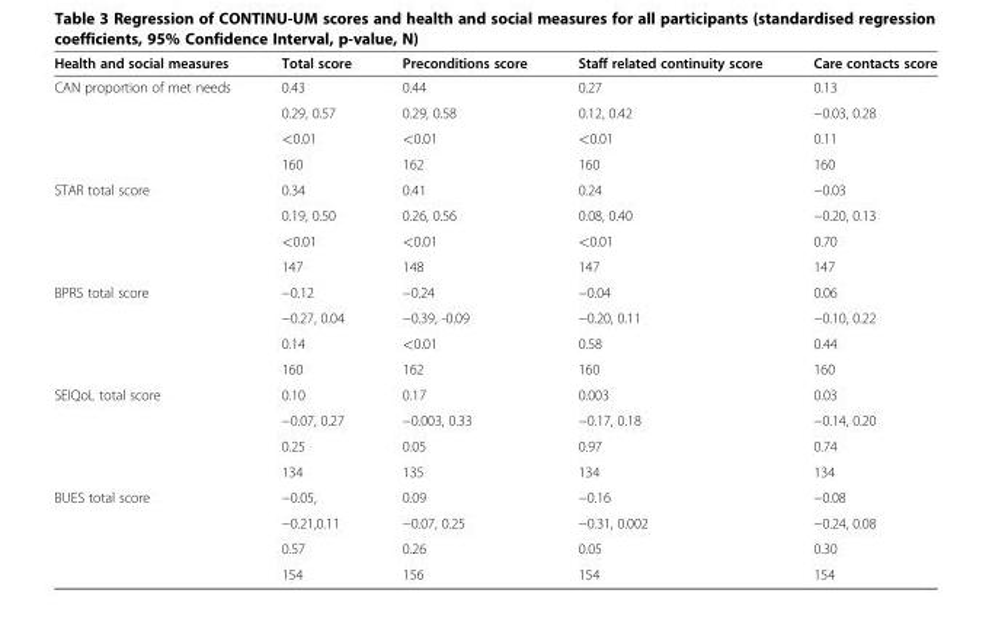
<table><thead><tr><td>Health and social measures</td><td>Total score</td><td>Preconditions score</td><td>Staff related continuity score</td><td>Care contacts score</td></tr></thead><tbody><tr><td rowspan="4">CAN proportion of met needs</td><td>0.43</td><td>0.44</td><td>0.27</td><td>0.13</td></tr><tr><td>0.29, 0.57</td><td>0.29, 0.58</td><td>0.12, 0.42</td><td>−0.03, 0.28</td></tr><tr><td>&lt;0.01</td><td>&lt;0.01</td><td>&lt;0.01</td><td>0.11</td></tr><tr><td>160</td><td>162</td><td>160</td><td>160</td></tr><tr><td rowspan="4">STAR total score</td><td>0.34</td><td>0.41</td><td>0.24</td><td>−0.03</td></tr><tr><td>0.19, 0.50</td><td>0.26, 0.56</td><td>0.08, 0.40</td><td>−0.20, 0.13</td></tr><tr><td>&lt;0.01</td><td>&lt;0.01</td><td>&lt;0.01</td><td>0.70</td></tr><tr><td>147</td><td>148</td><td>147</td><td>147</td></tr><tr><td rowspan="4">BPRS total score</td><td>−0.12</td><td>−0.24</td><td>−0.04</td><td>0.06</td></tr><tr><td>−0.27, 0.04</td><td>−0.39, -0.09</td><td>−0.20, 0.11</td><td>−0.10, 0.22</td></tr><tr><td>0.14</td><td>&lt;0.01</td><td>0.58</td><td>0.44</td></tr><tr><td>160</td><td>162</td><td>160</td><td>160</td></tr><tr><td rowspan="4">SEIQoL total score</td><td>0.10</td><td>0.17</td><td>0.003</td><td>0.03</td></tr><tr><td>−0.07, 0.27</td><td>−0.003, 0.33</td><td>−0.17, 0.18</td><td>−0.14, 0.20</td></tr><tr><td>0.25</td><td>0.05</td><td>0.97</td><td>0.74</td></tr><tr><td>134</td><td>135</td><td>134</td><td>134</td></tr><tr><td rowspan="4">BUES total score</td><td>−0.05,</td><td>0.09</td><td>−0.16</td><td>−0.08</td></tr><tr><td>−0.21,0.11</td><td>−0.07, 0.25</td><td>−0.31, 0.002</td><td>−0.24, 0.08</td></tr><tr><td>0.57</td><td>0.26</td><td>0.05</td><td>0.30</td></tr><tr><td>154</td><td>156</td><td>154</td><td>154</td></tr></tbody></table>